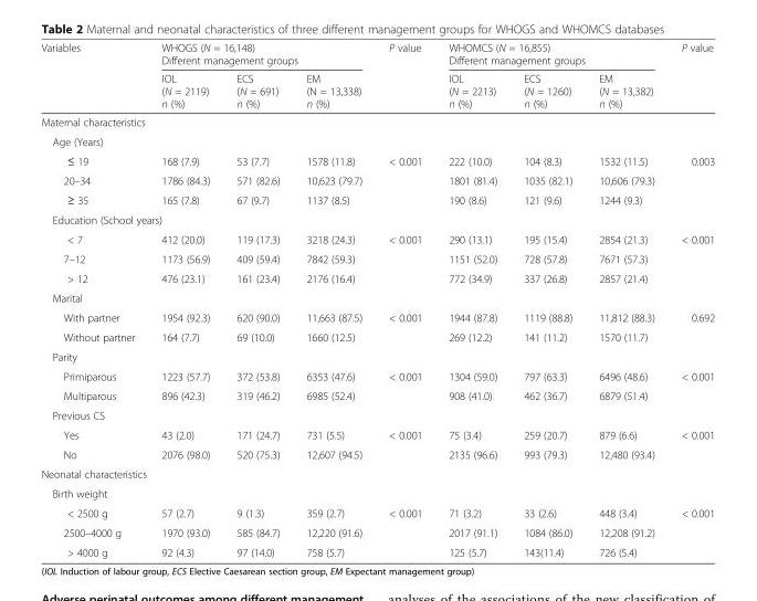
<table><thead><tr><td rowspan="2">Variables</td><td colspan="3">WHOGS (N = 16,148) Different management groups</td><td rowspan="2">P value</td><td colspan="3">WHOMCS (N = 16,855) Different management groups</td><td rowspan="2">P value</td></tr><tr><td>IOL (N = 2119) n (%)</td><td>ECS (N = 691) n (%)</td><td>EM (N = 13,338) n (%)</td><td>IOL (N = 2213) n (%)</td><td>ECS (N = 1260) n (%)</td><td>EM (N = 13,382) n (%)</td></tr></thead><tbody><tr><td colspan="9">Maternal characteristics</td></tr><tr><td colspan="9">Age (Years)</td></tr><tr><td>≤ 19</td><td>168 (7.9)</td><td>53 (7.7)</td><td>1578 (11.8)</td><td rowspan="3">&lt; 0.001</td><td>222 (10.0)</td><td>104 (8.3)</td><td>1532 (11.5)</td><td rowspan="3">0.003</td></tr><tr><td>20–34</td><td>1786 (84.3)</td><td>571 (82.6)</td><td>10,623 (79.7)</td><td>1801 (81.4)</td><td>1035 (82.1)</td><td>10,606 (79.3)</td></tr><tr><td>≥ 35</td><td>165 (7.8)</td><td>67 (9.7)</td><td>1137 (8.5)</td><td>190 (8.6)</td><td>121 (9.6)</td><td>1244 (9.3)</td></tr><tr><td colspan="9">Education (School years)</td></tr><tr><td>&lt; 7</td><td>412 (20.0)</td><td>119 (17.3)</td><td>3218 (24.3)</td><td rowspan="3">&lt; 0.001</td><td>290 (13.1)</td><td>195 (15.4)</td><td>2854 (21.3)</td><td rowspan="3">&lt; 0.001</td></tr><tr><td>7–12</td><td>1173 (56.9)</td><td>409 (59.4)</td><td>7842 (59.3)</td><td>1151 (52.0)</td><td>728 (57.8)</td><td>7671 (57.3)</td></tr><tr><td>&gt; 12</td><td>476 (23.1)</td><td>161 (23.4)</td><td>2176 (16.4)</td><td>772 (34.9)</td><td>337 (26.8)</td><td>2857 (21.4)</td></tr><tr><td colspan="9">Marital</td></tr><tr><td>With partner</td><td>1954 (92.3)</td><td>620 (90.0)</td><td>11,663 (87.5)</td><td rowspan="2">&lt; 0.001</td><td>1944 (87.8)</td><td>1119 (88.8)</td><td>11,812 (88.3)</td><td rowspan="2">0.692</td></tr><tr><td>Without partner</td><td>164 (7.7)</td><td>69 (10.0)</td><td>1660 (12.5)</td><td>269 (12.2)</td><td>141 (11.2)</td><td>1570 (11.7)</td></tr><tr><td colspan="9">Parity</td></tr><tr><td>Primiparous</td><td>1223 (57.7)</td><td>372 (53.8)</td><td>6353 (47.6)</td><td rowspan="2">&lt; 0.001</td><td>1304 (59.0)</td><td>797 (63.3)</td><td>6496 (48.6)</td><td rowspan="2">&lt; 0.001</td></tr><tr><td>Multiparous</td><td>896 (42.3)</td><td>319 (46.2)</td><td>6985 (52.4)</td><td>908 (41.0)</td><td>462 (36.7)</td><td>6879 (51.4)</td></tr><tr><td colspan="9">Previous CS</td></tr><tr><td>Yes</td><td>43 (2.0)</td><td>171 (24.7)</td><td>731 (5.5)</td><td rowspan="2">&lt; 0.001</td><td>75 (3.4)</td><td>259 (20.7)</td><td>879 (6.6)</td><td rowspan="2">&lt; 0.001</td></tr><tr><td>No</td><td>2076 (98.0)</td><td>520 (75.3)</td><td>12,607 (94.5)</td><td>2135 (96.6)</td><td>993 (79.3)</td><td>12,480 (93.4)</td></tr><tr><td colspan="9">Neonatal characteristics</td></tr><tr><td colspan="9">Birth weight</td></tr><tr><td>&lt; 2500 g</td><td>57 (2.7)</td><td>9 (1.3)</td><td>359 (2.7)</td><td rowspan="3">&lt; 0.001</td><td>71 (3.2)</td><td>33 (2.6)</td><td>448 (3.4)</td><td rowspan="3">&lt; 0.001</td></tr><tr><td>2500–4000 g</td><td>1970 (93.0)</td><td>585 (84.7)</td><td>12,220 (91.6)</td><td>2017 (91.1)</td><td>1084 (86.0)</td><td>12,208 (91.2)</td></tr><tr><td>&gt; 4000 g</td><td>92 (4.3)</td><td>97 (14.0)</td><td>758 (5.7)</td><td>125 (5.7)</td><td>143(11.4)</td><td>726 (5.4)</td></tr></tbody></table>